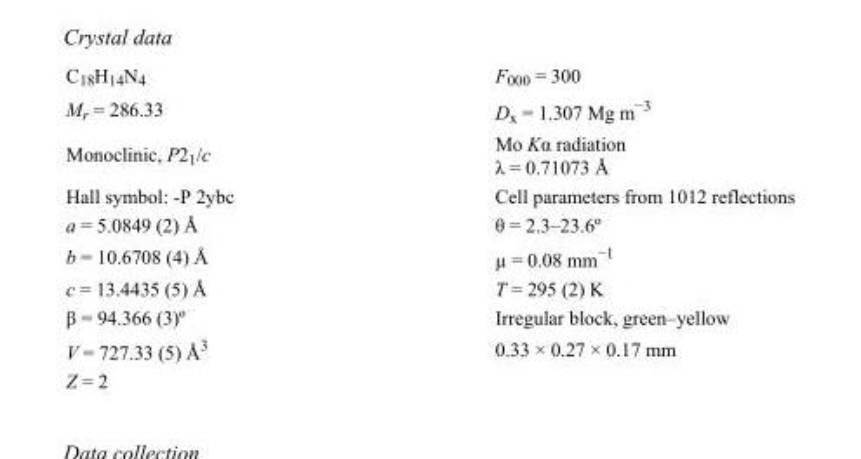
<table><tbody><tr><td>C<sub>18</sub>H<sub>14</sub>N<sub>4</sub></td><td>F<sub>000</sub> = 300</td></tr><tr><td>M<sub>r</sub> = 286.33</td><td>D<sub>x</sub> = 1.307 Mg m<sup>−3</sup></td></tr><tr><td>Monoclinic, P2<sub>1</sub>/c</td><td>Mo Kα radiation λ = 0.71073 Å</td></tr><tr><td>Hall symbol: -P 2ybc</td><td>Cell parameters from 1012 reflections</td></tr><tr><td>a = 5.0849 (2) Å</td><td>θ = 2.3–23.6º</td></tr><tr><td>b = 10.6708 (4) Å</td><td>µ = 0.08 mm<sup>−1</sup></td></tr><tr><td>c = 13.4435 (5) Å</td><td>T = 295 (2) K</td></tr><tr><td>β = 94.366 (3)º</td><td>Irregular block, green–yellow</td></tr><tr><td>V = 727.33 (5) Å<sup>3</sup></td><td>0.33 × 0.27 × 0.17 mm</td></tr><tr><td>Z = 2</td><td></td></tr></tbody></table>